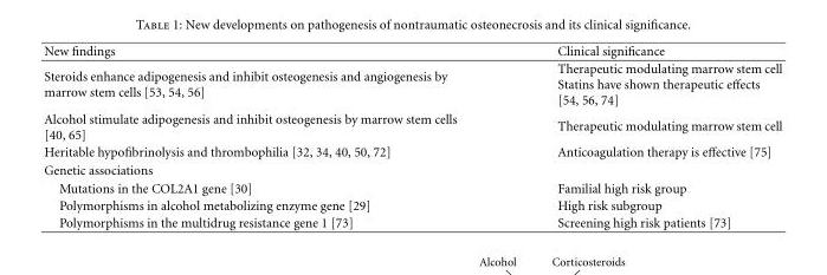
<table><thead><tr><td>New findings</td><td>Clinical significance</td></tr></thead><tbody><tr><td>Steroids enhance adipogenesis and inhibit osteogenesis and angiogenesis by marrow stem cells [53, 54, 56]</td><td>Therapeutic modulating marrow stem cell Statins have shown therapeutic effects [54, 56, 74]</td></tr><tr><td>Alcohol stimulate adipogenesis and inhibit osteogenesis by marrow stem cells [40, 65]</td><td>Therapeutic modulating marrow stem cell</td></tr><tr><td>Heritable hypofibrinolysis and thrombophilia [32, 34, 40, 50, 72]</td><td>Anticoagulation therapy is effective [75]</td></tr><tr><td colspan="2">Genetic associations</td></tr><tr><td>Mutations in the COL2A1 gene [30]</td><td>Familial high risk group</td></tr><tr><td>Polymorphisms in alcohol metabolizing enzyme gene [29]</td><td>High risk subgroup</td></tr><tr><td>Polymorphisms in the multidrug resistance gene 1 [73]</td><td>Screening high risk patients [73]</td></tr></tbody></table>